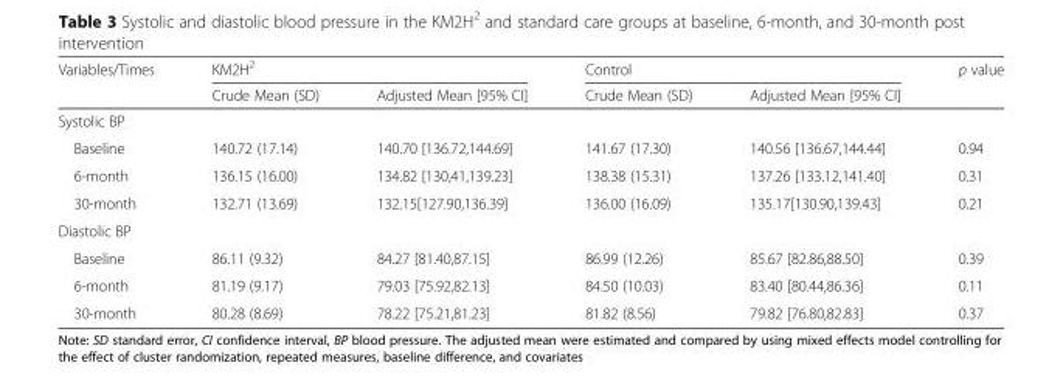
<table><thead><tr><td rowspan="2">Variables/Times</td><td colspan="2">KM2H<sup>2</sup></td><td colspan="2">Control</td><td rowspan="2">p value</td></tr><tr><td>Crude Mean (SD)</td><td>Adjusted Mean [95% CI]</td><td>Crude Mean (SD)</td><td>Adjusted Mean [95% CI]</td></tr></thead><tbody><tr><td colspan="6">Systolic BP</td></tr><tr><td>Baseline</td><td>140.72 (17.14)</td><td>140.70 [136.72,144.69]</td><td>141.67 (17.30)</td><td>140.56 [136.67,144.44]</td><td>0.94</td></tr><tr><td>6-month</td><td>136.15 (16.00)</td><td>134.82 [130,41,139.23]</td><td>138.38 (15.31)</td><td>137.26 [133.12,141.40]</td><td>0.31</td></tr><tr><td>30-month</td><td>132.71 (13.69)</td><td>132.15[127.90,136.39]</td><td>136.00 (16.09)</td><td>135.17[130.90,139.43]</td><td>0.21</td></tr><tr><td colspan="6">Diastolic BP</td></tr><tr><td>Baseline</td><td>86.11 (9.32)</td><td>84.27 [81.40,87.15]</td><td>86.99 (12.26)</td><td>85.67 [82.86,88.50]</td><td>0.39</td></tr><tr><td>6-month</td><td>81.19 (9.17)</td><td>79.03 [75.92,82.13]</td><td>84.50 (10.03)</td><td>83.40 [80.44,86.36]</td><td>0.11</td></tr><tr><td>30-month</td><td>80.28 (8.69)</td><td>78.22 [75.21,81.23]</td><td>81.82 (8.56)</td><td>79.82 [76.80,82.83]</td><td>0.37</td></tr></tbody></table>